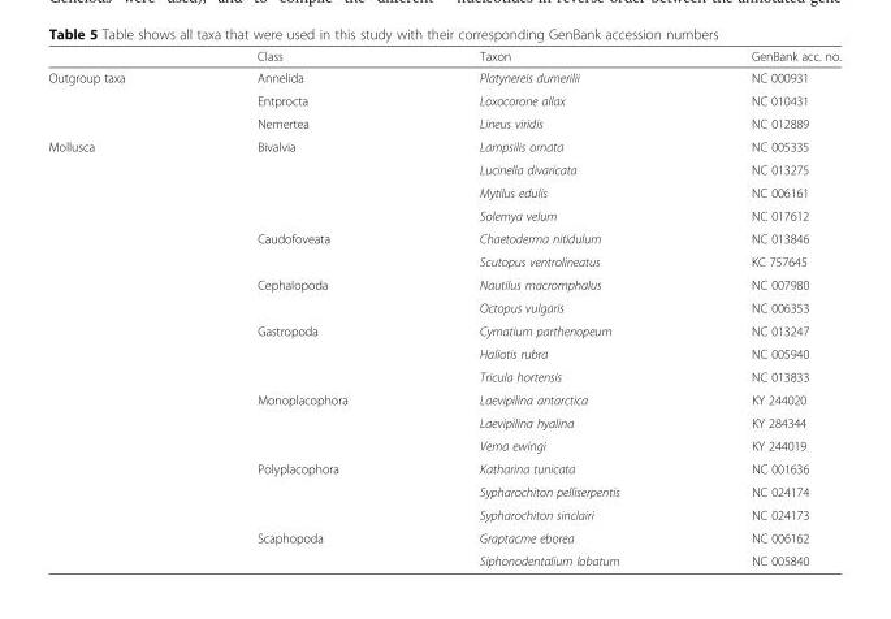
<table><thead><tr><td></td><td>Class</td><td>Taxon</td><td>GenBank acc. no.</td></tr></thead><tbody><tr><td rowspan="3">Outgroup taxa</td><td>Annelida</td><td>Platynereis dumerilii</td><td>NC 000931</td></tr><tr><td>Entprocta</td><td>Loxocorone allax</td><td>NC 010431</td></tr><tr><td>Nemertea</td><td>Lineus viridis</td><td>NC 012889</td></tr><tr><td rowspan="19">Mollusca</td><td>Bivalvia</td><td>Lampsilis ornata</td><td>NC 005335</td></tr><tr><td></td><td>Lucinella divaricata</td><td>NC 013275</td></tr><tr><td></td><td>Mytilus edulis</td><td>NC 006161</td></tr><tr><td></td><td>Solemya velum</td><td>NC 017612</td></tr><tr><td>Caudofoveata</td><td>Chaetoderma nitidulum</td><td>NC 013846</td></tr><tr><td></td><td>Scutopus ventrolineatus</td><td>KC 757645</td></tr><tr><td>Cephalopoda</td><td>Nautilus macromphalus</td><td>NC 007980</td></tr><tr><td></td><td>Octopus vulgaris</td><td>NC 006353</td></tr><tr><td>Gastropoda</td><td>Cymatium parthenopeum</td><td>NC 013247</td></tr><tr><td></td><td>Haliotis rubra</td><td>NC 005940</td></tr><tr><td></td><td>Tricula hortensis</td><td>NC 013833</td></tr><tr><td>Monoplacophora</td><td>Laevipilina antarctica</td><td>KY 244020</td></tr><tr><td></td><td>Laevipilina hyalina</td><td>KY 284344</td></tr><tr><td></td><td>Vema ewingi</td><td>KY 244019</td></tr><tr><td>Polyplacophora</td><td>Katharina tunicata</td><td>NC 001636</td></tr><tr><td></td><td>Sypharochiton pelliserpentis</td><td>NC 024174</td></tr><tr><td></td><td>Sypharochiton sinclairi</td><td>NC 024173</td></tr><tr><td>Scaphopoda</td><td>Graptacme eborea</td><td>NC 006162</td></tr><tr><td></td><td>Siphonodentalium lobatum</td><td>NC 005840</td></tr></tbody></table>